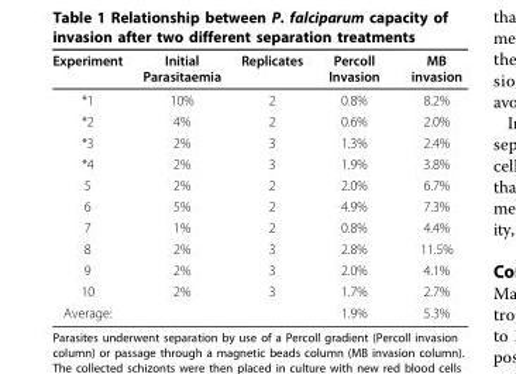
<table><thead><tr><td>Experiment</td><td>Initial Parasitaemia</td><td>Replicates</td><td>Percoll Invasion</td><td>MB invasion</td></tr></thead><tbody><tr><td>*1</td><td>10%</td><td>2</td><td>0.8%</td><td>8.2%</td></tr><tr><td>*2</td><td>4%</td><td>2</td><td>0.6%</td><td>2.0%</td></tr><tr><td>*3</td><td>2%</td><td>3</td><td>1.3%</td><td>2.4%</td></tr><tr><td>*4</td><td>2%</td><td>3</td><td>1.9%</td><td>3.8%</td></tr><tr><td>5</td><td>2%</td><td>2</td><td>2.0%</td><td>6.7%</td></tr><tr><td>6</td><td>5%</td><td>2</td><td>4.9%</td><td>7.3%</td></tr><tr><td>7</td><td>1%</td><td>2</td><td>0.8%</td><td>4.4%</td></tr><tr><td>8</td><td>2%</td><td>3</td><td>2.8%</td><td>11.5%</td></tr><tr><td>9</td><td>2%</td><td>3</td><td>2.0%</td><td>4.1%</td></tr><tr><td>10</td><td>2%</td><td>3</td><td>1.7%</td><td>2.7%</td></tr><tr><td>Average:</td><td></td><td></td><td>1.9%</td><td>5.3%</td></tr></tbody></table>